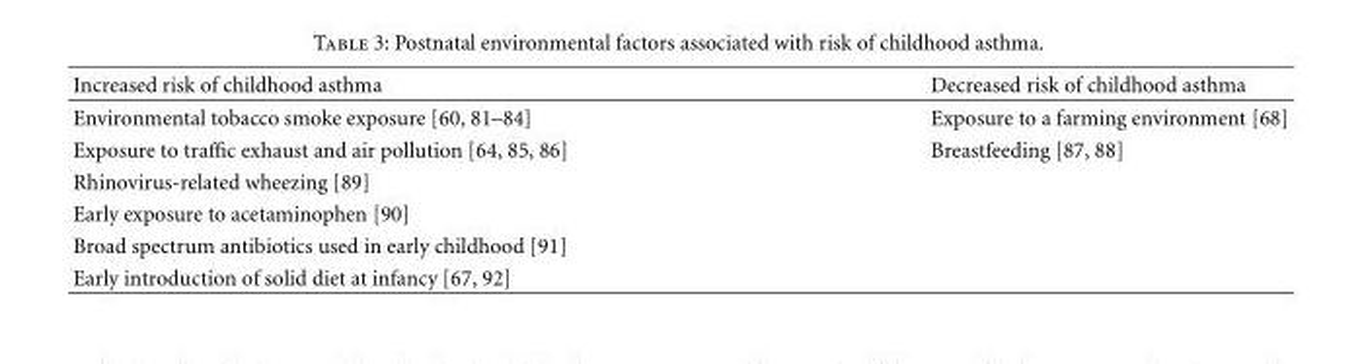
<table><thead><tr><td>Increased risk of childhood asthma</td><td>Decreased risk of childhood asthma</td></tr></thead><tbody><tr><td>Environmental tobacco smoke exposure [60, 81–84]</td><td>Exposure to a farming environment [68]</td></tr><tr><td>Exposure to traffic exhaust and air pollution [64, 85, 86]</td><td>Breastfeeding [87, 88]</td></tr><tr><td colspan="2">Rhinovirus-related wheezing [89]</td></tr><tr><td colspan="2">Early exposure to acetaminophen [90]</td></tr><tr><td colspan="2">Broad spectrum antibiotics used in early childhood [91]</td></tr><tr><td>Early introduction of solid diet at infancy [67, 92]</td><td></td></tr></tbody></table>